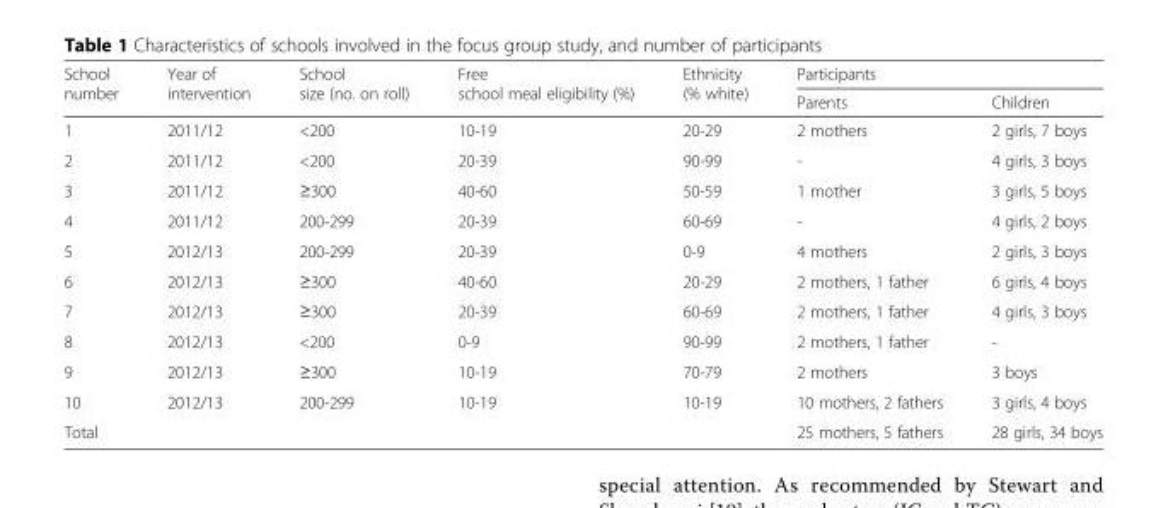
<table><thead><tr><td rowspan="2">School number</td><td rowspan="2">Year of intervention</td><td rowspan="2">School size (no. on roll)</td><td rowspan="2">Free school meal eligibility (%)</td><td rowspan="2">Ethnicity (% white)</td><td colspan="2">Participants</td></tr><tr><td>Parents</td><td>Children</td></tr></thead><tbody><tr><td>1</td><td>2011/12</td><td>&lt;200</td><td>10-19</td><td>20-29</td><td>2 mothers</td><td>2 girls, 7 boys</td></tr><tr><td>2</td><td>2011/12</td><td>&lt;200</td><td>20-39</td><td>90-99</td><td>-</td><td>4 girls, 3 boys</td></tr><tr><td>3</td><td>2011/12</td><td>≥300</td><td>40-60</td><td>50-59</td><td>1 mother</td><td>3 girls, 5 boys</td></tr><tr><td>4</td><td>2011/12</td><td>200-299</td><td>20-39</td><td>60-69</td><td>-</td><td>4 girls, 2 boys</td></tr><tr><td>5</td><td>2012/13</td><td>200-299</td><td>20-39</td><td>0-9</td><td>4 mothers</td><td>2 girls, 3 boys</td></tr><tr><td>6</td><td>2012/13</td><td>≥300</td><td>40-60</td><td>20-29</td><td>2 mothers, 1 father</td><td>6 girls, 4 boys</td></tr><tr><td>7</td><td>2012/13</td><td>≥300</td><td>20-39</td><td>60-69</td><td>2 mothers, 1 father</td><td>4 girls, 3 boys</td></tr><tr><td>8</td><td>2012/13</td><td>&lt;200</td><td>0-9</td><td>90-99</td><td>2 mothers, 1 father</td><td>-</td></tr><tr><td>9</td><td>2012/13</td><td>≥300</td><td>10-19</td><td>70-79</td><td>2 mothers</td><td>3 boys</td></tr><tr><td>10</td><td>2012/13</td><td>200-299</td><td>10-19</td><td>10-19</td><td>10 mothers, 2 fathers</td><td>3 girls, 4 boys</td></tr><tr><td>Total</td><td></td><td></td><td></td><td></td><td>25 mothers, 5 fathers</td><td>28 girls, 34 boys</td></tr></tbody></table>